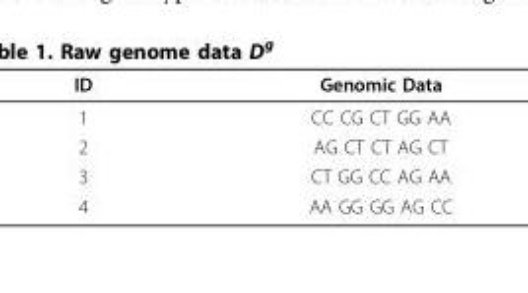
<table><thead><tr><td>ID</td><td>Genomic Data</td></tr></thead><tbody><tr><td>1</td><td>CC CG CT GG AA</td></tr><tr><td>2</td><td>AG CT CT AG CT</td></tr><tr><td>3</td><td>CT GG CC AG AA</td></tr><tr><td>4</td><td>AA GG GG AG CC</td></tr></tbody></table>